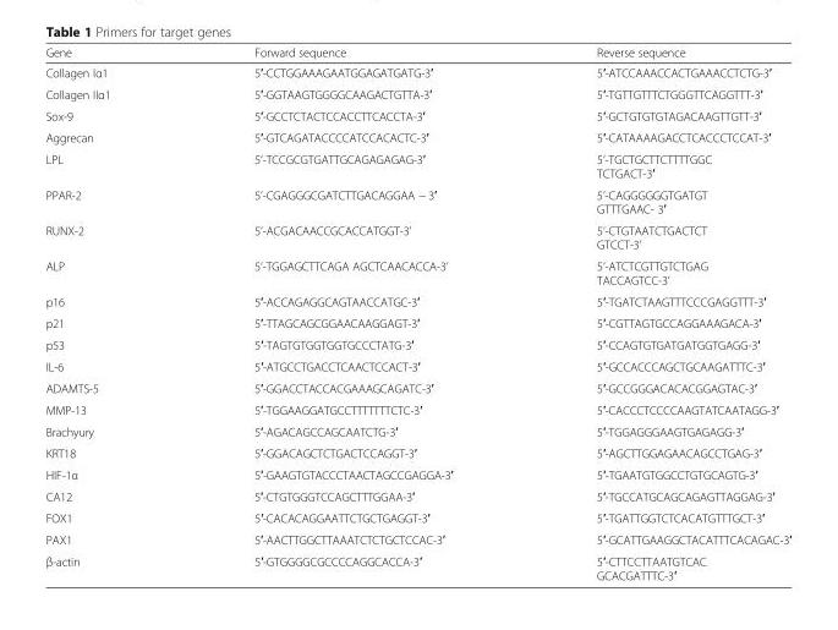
<table><thead><tr><td>Gene</td><td>Forward sequence</td><td>Reverse sequence</td></tr></thead><tbody><tr><td>Collagen Iα1</td><td>5′-CCTGGAAAGAATGGAGATGATG-3′</td><td>5′-ATCCAAACCACTGAAACCTCTG-3′</td></tr><tr><td>Collagen IIα1</td><td>5′-GGTAAGTGGGGCAAGACTGTTA-3′</td><td>5′-TGTTGTTTCTGGGTTCAGGTTT-3′</td></tr><tr><td>Sox-9</td><td>5′-GCCTCTACTCCACCTTCACCTA-3′</td><td>5′-GCTGTGTGTAGACAAGTTGTT-3′</td></tr><tr><td>Aggrecan</td><td>5′-GTCAGATACCCCATCCACACTC-3′</td><td>5′-CATAAAAGACCTCACCCTCCAT-3′</td></tr><tr><td>LPL</td><td>5’-TCCGCGTGATTGCAGAGAGAG-3′</td><td>5’-TGCTGCTTCTTTTGGC TCTGACT-3′</td></tr><tr><td>PPAR-2</td><td>5’-CGAGGGCGATCTTGACAGGAA − 3′</td><td>5’-CAGGGGGGTGATGT GTTTGAAC- 3′</td></tr><tr><td>RUNX-2</td><td>5’-ACGACAACCGCACCATGGT-3’</td><td>5’-CTGTAATCTGACTCT GTCCT-3’</td></tr><tr><td>ALP</td><td>5’-TGGAGCTTCAGA AGCTCAACACCA-3’</td><td>5’-ATCTCGTTGTCTGAG TACCAGTCC-3’</td></tr><tr><td>p16</td><td>5′-ACCAGAGGCAGTAACCATGC-3′</td><td>5′-TGATCTAAGTTTCCCGAGGTTT-3′</td></tr><tr><td>p21</td><td>5′-TTAGCAGCGGAACAAGGAGT-3′</td><td>5′-CGTTAGTGCCAGGAAAGACA-3′</td></tr><tr><td>p53</td><td>5′-TAGTGTGGTGGTGCCCTATG-3′</td><td>5′-CCAGTGTGATGATGGTGAGG-3′</td></tr><tr><td>IL-6</td><td>5′-ATGCCTGACCTCAACTCCACT-3′</td><td>5′-GCCACCCAGCTGCAAGATTTC-3′</td></tr><tr><td>ADAMTS-5</td><td>5′-GGACCTACCACGAAAGCAGATC-3′</td><td>5′-GCCGGGACACACGGAGTAC-3′</td></tr><tr><td>MMP-13</td><td>5′-TGGAAGGATGCCTTTTTTTCTC-3′</td><td>5′-CACCCTCCCCAAGTATCAATAGG-3′</td></tr><tr><td>Brachyury</td><td>5′-AGACAGCCAGCAATCTG-3′</td><td>5′-TGGAGGGAAGTGAGAGG-3′</td></tr><tr><td>KRT18</td><td>5′-GGACAGCTCTGACTCCAGGT-3′</td><td>5′-AGCTTGGAGAACAGCCTGAG-3′</td></tr><tr><td>HIF-1α</td><td>5′-GAAGTGTACCCTAACTAGCCGAGGA-3′</td><td>5′-TGAATGTGGCCTGTGCAGTG-3′</td></tr><tr><td>CA12</td><td>5′-CTGTGGGTCCAGCTTTGGAA-3′</td><td>5′-TGCCATGCAGCAGAGTTAGGAG-3′</td></tr><tr><td>FOX1</td><td>5′-CACACAGGAATTCTGCTGAGGT-3′</td><td>5′-TGATTGGTCTCACATGTTTGCT-3′</td></tr><tr><td>PAX1</td><td>5′-AACTTGGCTTAAATCTCTGCTCCAC-3′</td><td>5′-GCATTGAAGGCTACATTTCACAGAC-3′</td></tr><tr><td>β-actin</td><td>5′-GTGGGGCGCCCCAGGCACCA-3′</td><td>5′-CTTCCTTAATGTCAC GCACGATTTC-3′</td></tr></tbody></table>